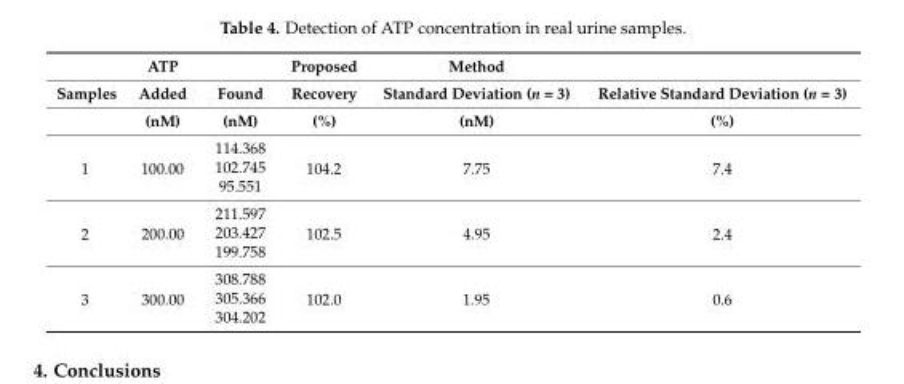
<table><thead><tr><td rowspan="3">Samples</td><td rowspan="3">ATP Added (nM)</td><td rowspan="3">Found (nM)</td><td rowspan="3">Proposed Recovery (%)</td><td rowspan="3">Method Standard Deviation (n = 3) (nM)</td><td rowspan="3">Relative Standard Deviation (n = 3) (%)</td></tr><tr></tr><tr></tr></thead><tbody><tr><td rowspan="3">1</td><td rowspan="3">100.00</td><td>114.368</td><td rowspan="3">104.2</td><td rowspan="3">7.75</td><td rowspan="3">7.4</td></tr><tr><td>102.745</td></tr><tr><td>95.551</td></tr><tr><td rowspan="3">2</td><td rowspan="3">200.00</td><td>211.597</td><td rowspan="3">102.5</td><td rowspan="3">4.95</td><td rowspan="3">2.4</td></tr><tr><td>203.427</td></tr><tr><td>199.758</td></tr><tr><td rowspan="3">3</td><td rowspan="3">300.00</td><td>308.788</td><td rowspan="3">102.0</td><td rowspan="3">1.95</td><td rowspan="3">0.6</td></tr><tr><td>305.366</td></tr><tr><td>304.202</td></tr></tbody></table>